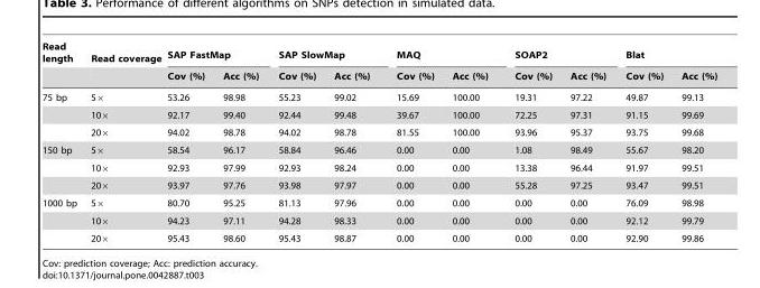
<table><thead><tr><td rowspan="2">Read length</td><td rowspan="2">Read coverage</td><td colspan="2">SAP FastMap</td><td colspan="2">SAP SlowMap</td><td colspan="2">MAQ</td><td colspan="2">SOAP2</td><td colspan="2">Blat</td></tr><tr><td>Cov (%)</td><td>Acc (%)</td><td>Cov (%)</td><td>Acc (%)</td><td>Cov (%)</td><td>Acc (%)</td><td>Cov (%)</td><td>Acc (%)</td><td>Cov (%)</td><td>Acc (%)</td></tr></thead><tbody><tr><td rowspan="3">75 bp</td><td>5×</td><td>53.26</td><td>98.98</td><td>55.23</td><td>99.02</td><td>15.69</td><td>100.00</td><td>19.31</td><td>97.22</td><td>49.87</td><td>99.13</td></tr><tr><td>10×</td><td>92.17</td><td>99.40</td><td>92.44</td><td>99.48</td><td>39.67</td><td>100.00</td><td>72.25</td><td>97.31</td><td>91.15</td><td>99.69</td></tr><tr><td>20×</td><td>94.02</td><td>98.78</td><td>94.02</td><td>98.78</td><td>81.55</td><td>100.00</td><td>93.96</td><td>95.37</td><td>93.75</td><td>99.68</td></tr><tr><td rowspan="3">150 bp</td><td>5×</td><td>58.54</td><td>96.17</td><td>58.84</td><td>96.46</td><td>0.00</td><td>0.00</td><td>1.08</td><td>98.49</td><td>55.67</td><td>98.20</td></tr><tr><td>10×</td><td>92.93</td><td>97.99</td><td>92.93</td><td>98.24</td><td>0.00</td><td>0.00</td><td>13.38</td><td>96.44</td><td>91.97</td><td>99.51</td></tr><tr><td>20×</td><td>93.97</td><td>97.76</td><td>93.98</td><td>97.97</td><td>0.00</td><td>0.00</td><td>55.28</td><td>97.25</td><td>93.47</td><td>99.51</td></tr><tr><td rowspan="3">1000 bp</td><td>5×</td><td>80.70</td><td>95.25</td><td>81.13</td><td>97.96</td><td>0.00</td><td>0.00</td><td>0.00</td><td>0.00</td><td>76.09</td><td>98.98</td></tr><tr><td>10×</td><td>94.23</td><td>97.11</td><td>94.28</td><td>98.33</td><td>0.00</td><td>0.00</td><td>0.00</td><td>0.00</td><td>92.12</td><td>99.79</td></tr><tr><td>20×</td><td>95.43</td><td>98.60</td><td>95.43</td><td>98.87</td><td>0.00</td><td>0.00</td><td>0.00</td><td>0.00</td><td>92.90</td><td>99.86</td></tr></tbody></table>